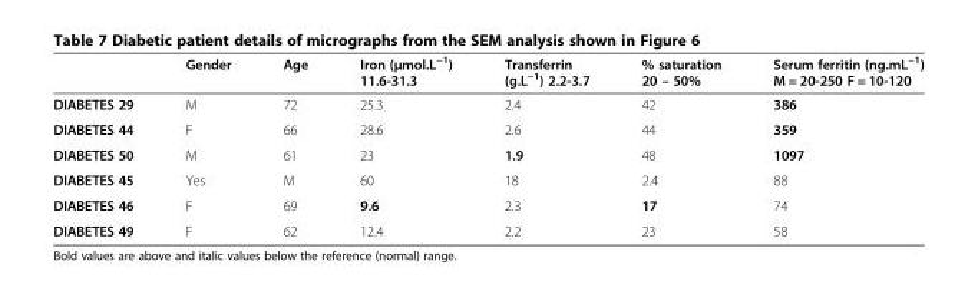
<table><thead><tr><td></td><td>Gender</td><td>Age</td><td>Iron (μmol.L<sup>−1</sup>) 11.6-31.3</td><td>Transferrin (g.L<sup>−1</sup>) 2.2-3.7</td><td>% saturation 20 – 50%</td><td>Serum ferritin (ng.mL<sup>−1</sup>) M = 20-250 F = 10-120</td></tr></thead><tbody><tr><td>DIABETES 29</td><td>M</td><td>72</td><td>25.3</td><td>2.4</td><td>42</td><td>386</td></tr><tr><td>DIABETES 44</td><td>F</td><td>66</td><td>28.6</td><td>2.6</td><td>44</td><td>359</td></tr><tr><td>DIABETES 50</td><td>M</td><td>61</td><td>23</td><td>1.9</td><td>48</td><td>1097</td></tr><tr><td>DIABETES 45</td><td>Yes</td><td>M</td><td>60</td><td>18</td><td>2.4</td><td>88</td></tr><tr><td>DIABETES 46</td><td>F</td><td>69</td><td>9.6</td><td>2.3</td><td>17</td><td>74</td></tr><tr><td>DIABETES 49</td><td>F</td><td>62</td><td>12.4</td><td>2.2</td><td>23</td><td>58</td></tr></tbody></table>